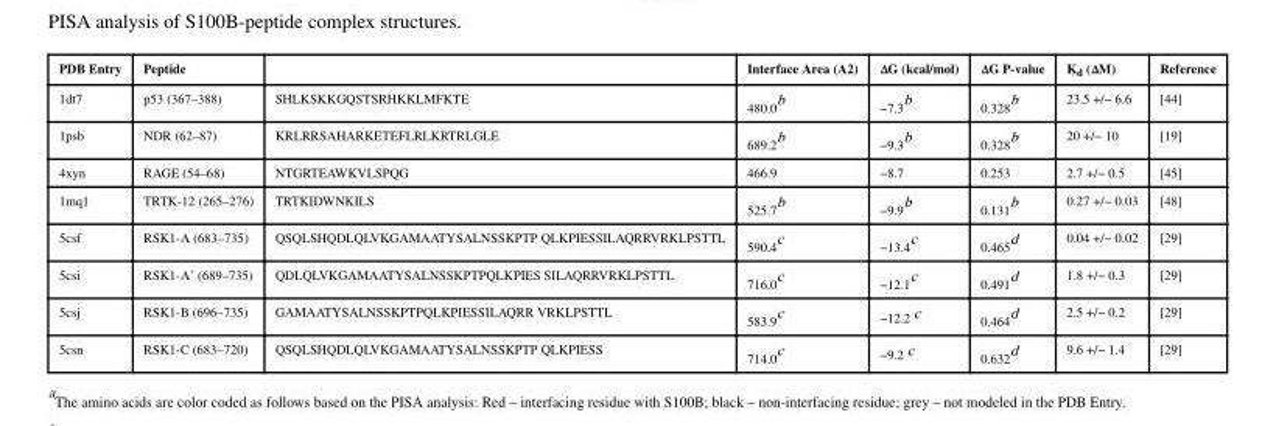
<table><thead><tr><td>PDB Entry</td><td>Peptide</td><td></td><td>Interface Area (A2)</td><td>ΔG (kcal/mol)</td><td>ΔG P-value</td><td>K<sub>d</sub> (ΔM)</td><td>Reference</td></tr></thead><tbody><tr><td>1dt7</td><td>p53 (367–388)</td><td>SHLKSKKGQSTSRHKKLMFKTE</td><td>480.0<sup>b</sup></td><td>−7.3<sup>b</sup></td><td>0.328<sup>b</sup></td><td>23.5 +/− 6.6</td><td>[44]</td></tr><tr><td>1psb</td><td>NDR (62–87)</td><td>KRLRRSAHARKETEFLRLKRTRLGLE</td><td>689.2<sup>b</sup></td><td>−9.3<sup>b</sup></td><td>0.328<sup>b</sup></td><td>20 +/− 10</td><td>[19]</td></tr><tr><td>4xyn</td><td>RAGE (54–68)</td><td>NTGRTEAWKVLSPQG</td><td>466.9</td><td>−8.7</td><td>0.253</td><td>2.7 +/− 0.5</td><td>[45]</td></tr><tr><td>1mq1</td><td>TRTK-12 (265–276)</td><td>TRTKIDWNKILS</td><td>525.7<sup>b</sup></td><td>−9.9<sup>b</sup></td><td>0.131<sup>b</sup></td><td>0.27 +/− 0.03</td><td>[48]</td></tr><tr><td>5csf</td><td>RSK1-A (683–735)</td><td>QSQLSHQDLQLVKGAMAATYSALNSSKPTP QLKPIESSILAQRRVRKLPSTTL</td><td>590.4<sup>c</sup></td><td>−13.4<sup>c</sup></td><td>0.465<sup>d</sup></td><td>0.04 +/− 0.02</td><td>[29]</td></tr><tr><td>5csi</td><td>RSK1-A’ (689–735)</td><td>QDLQLVKGAMAATYSALNSSKPTPQLKPIES SILAQRRVRKLPSTTL</td><td>716.0<sup>c</sup></td><td>−12.1<sup>c</sup></td><td>0.491<sup>d</sup></td><td>1.8 +/− 0.3</td><td>[29]</td></tr><tr><td>5csj</td><td>RSK1-B (696–735)</td><td>GAMAATYSALNSSKPTPQLKPIESSILAQRR VRKLPSTTL</td><td>583.9<sup>c</sup></td><td>−12.2 c</td><td>0.464<sup>d</sup></td><td>2.5 +/− 0.2</td><td>[29]</td></tr><tr><td>5csn</td><td>RSK1-C (683–720)</td><td>QSQLSHQDLQLVKGAMAATYSALNSSKPTP QLKPIESS</td><td>714.0<sup>c</sup></td><td>−9.2 c</td><td>0.632<sup>d</sup></td><td>9.6 +/− 1.4</td><td>[29]</td></tr></tbody></table>